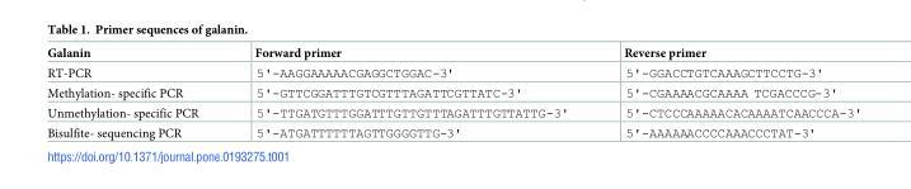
<table><thead><tr><td>Galanin</td><td>Forward primer</td><td>Reverse primer</td></tr></thead><tbody><tr><td>RT-PCR</td><td>5&#x27;-AAGGAAAAACGAGGCTGGAC-3&#x27;</td><td>5&#x27;-GGACCTGTCAAAGCTTCCTG-3&#x27;</td></tr><tr><td>Methylation- specific PCR</td><td>5&#x27;-GTTCGGATTTGTCGTTTAGATTCGTTATC-3&#x27;</td><td>5&#x27;-CGAAAACGCAAAA TCGACCCG-3&#x27;</td></tr><tr><td>Unmethylation- specific PCR</td><td>5&#x27;-TTGATGTTTGGATTTGTTGTTTAGATTTGTTATTG-3&#x27;</td><td>5&#x27;-CTCCCAAAAACACAAAATCAACCCA-3&#x27;</td></tr><tr><td>Bisulfite- sequencing PCR</td><td>5&#x27;-ATGATTTTTTAGTTGGGGTTG-3&#x27;</td><td>5&#x27;-AAAAAACCCCAAACCCTAT-3&#x27;</td></tr></tbody></table>